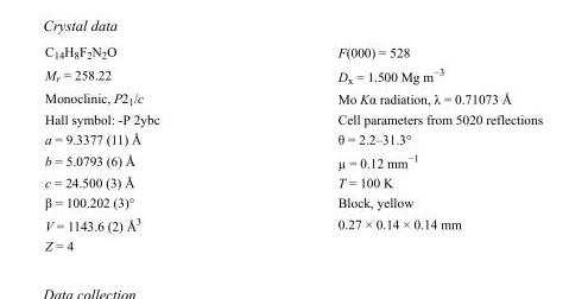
<table><tbody><tr><td>C<sub>14</sub>H<sub>8</sub>F<sub>2</sub>N<sub>2</sub>O</td><td>F(000) = 528</td></tr><tr><td>M<sub>r</sub> = 258.22</td><td>D<sub>x</sub> = 1.500 Mg m<sup>−3</sup></td></tr><tr><td>Monoclinic, P2<sub>1</sub>/c</td><td>Mo Kα radiation, λ = 0.71073 Å</td></tr><tr><td>Hall symbol: -P 2ybc</td><td>Cell parameters from 5020 reflections</td></tr><tr><td>a = 9.3377 (11) Å</td><td>θ = 2.2–31.3°</td></tr><tr><td>b = 5.0793 (6) Å</td><td>µ = 0.12 mm<sup>−1</sup></td></tr><tr><td>c = 24.500 (3) Å</td><td>T = 100 K</td></tr><tr><td>β = 100.202 (3)°</td><td>Block, yellow</td></tr><tr><td>V = 1143.6 (2) Å<sup>3</sup></td><td>0.27 × 0.14 × 0.14 mm</td></tr><tr><td>Z = 4</td><td></td></tr></tbody></table>